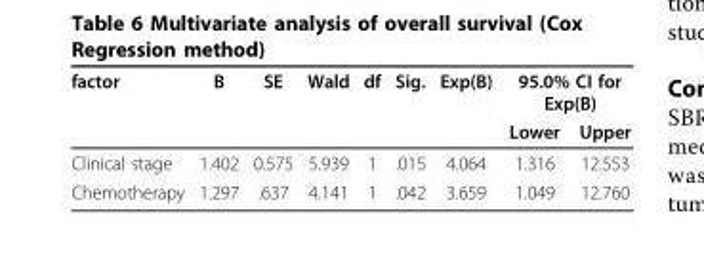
<table><thead><tr><td rowspan="2">factor</td><td rowspan="2">B</td><td rowspan="2">SE</td><td rowspan="2">Wald</td><td rowspan="2">df</td><td rowspan="2">Sig.</td><td rowspan="2">Exp(B)</td><td colspan="2">95.0% CI for Exp(B)</td></tr><tr><td>Lower</td><td>Upper</td></tr></thead><tbody><tr><td>Clinical stage</td><td>1.402</td><td>0.575</td><td>5.939</td><td>1</td><td>.015</td><td>4.064</td><td>1.316</td><td>12.553</td></tr><tr><td>Chemotherapy</td><td>1.297</td><td>.637</td><td>4.141</td><td>1</td><td>.042</td><td>3.659</td><td>1.049</td><td>12.760</td></tr></tbody></table>